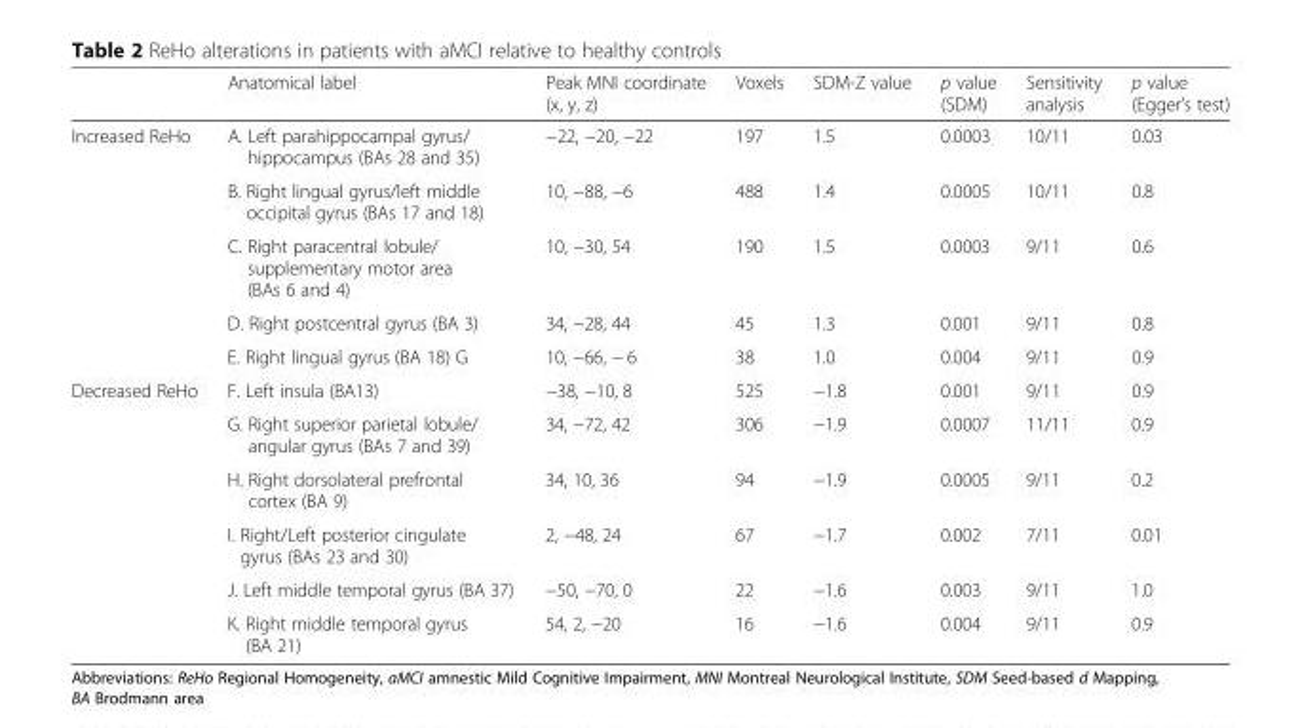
<table><thead><tr><td></td><td>Anatomical label</td><td>Peak MNI coordinate (x, y, z)</td><td>Voxels</td><td>SDM-Z value</td><td>p value (SDM)</td><td>Sensitivity analysis</td><td>p value (Egger’s test)</td></tr></thead><tbody><tr><td rowspan="5">Increased ReHo</td><td>A. Left parahippocampal gyrus/ hippocampus (BAs 28 and 35)</td><td>−22, −20, −22</td><td>197</td><td>1.5</td><td>0.0003</td><td>10/11</td><td>0.03</td></tr><tr><td>B. Right lingual gyrus/left middle occipital gyrus (BAs 17 and 18)</td><td>10, −88, −6</td><td>488</td><td>1.4</td><td>0.0005</td><td>10/11</td><td>0.8</td></tr><tr><td>C. Right paracentral lobule/ supplementary motor area (BAs 6 and 4)</td><td>10, −30, 54</td><td>190</td><td>1.5</td><td>0.0003</td><td>9/11</td><td>0.6</td></tr><tr><td>D. Right postcentral gyrus (BA 3)</td><td>34, −28, 44</td><td>45</td><td>1.3</td><td>0.001</td><td>9/11</td><td>0.8</td></tr><tr><td>E. Right lingual gyrus (BA 18) G</td><td>10, −66, − 6</td><td>38</td><td>1.0</td><td>0.004</td><td>9/11</td><td>0.9</td></tr><tr><td rowspan="6">Decreased ReHo</td><td>F. Left insula (BA13)</td><td>−38, −10, 8</td><td>525</td><td>−1.8</td><td>0.001</td><td>9/11</td><td>0.9</td></tr><tr><td>G. Right superior parietal lobule/ angular gyrus (BAs 7 and 39)</td><td>34, −72, 42</td><td>306</td><td>−1.9</td><td>0.0007</td><td>11/11</td><td>0.9</td></tr><tr><td>H. Right dorsolateral prefrontal cortex (BA 9)</td><td>34, 10, 36</td><td>94</td><td>−1.9</td><td>0.0005</td><td>9/11</td><td>0.2</td></tr><tr><td>I. Right/Left posterior cingulate gyrus (BAs 23 and 30)</td><td>2, −48, 24</td><td>67</td><td>−1.7</td><td>0.002</td><td>7/11</td><td>0.01</td></tr><tr><td>J. Left middle temporal gyrus (BA 37)</td><td>−50, −70, 0</td><td>22</td><td>−1.6</td><td>0.003</td><td>9/11</td><td>1.0</td></tr><tr><td>K. Right middle temporal gyrus (BA 21)</td><td>54, 2, −20</td><td>16</td><td>−1.6</td><td>0.004</td><td>9/11</td><td>0.9</td></tr></tbody></table>